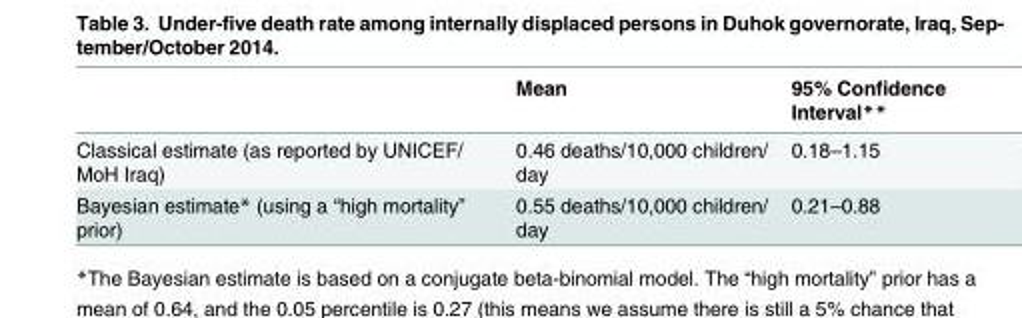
<table><thead><tr><td></td><td>Mean</td><td>95% Confidence Interval**</td></tr></thead><tbody><tr><td>Classical estimate (as reported by UNICEF/ MoH Iraq)</td><td>0.46 deaths/10,000 children/ day</td><td>0.18–1.15</td></tr><tr><td>Bayesian estimate* (using a “high mortality” prior)</td><td>0.55 deaths/10,000 children/ day</td><td>0.21–0.88</td></tr></tbody></table>